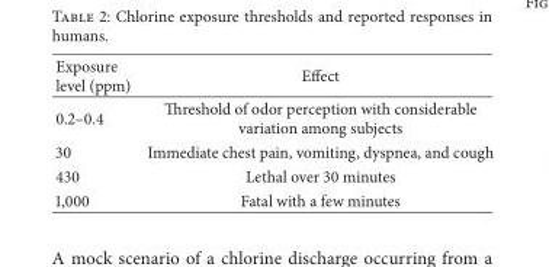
<table><thead><tr><td>Exposure level (ppm)</td><td>Effect</td></tr></thead><tbody><tr><td>0.2–0.4</td><td>Threshold of odor perception with considerable variation among subjects</td></tr><tr><td>30</td><td>Immediate chest pain, vomiting, dyspnea, and cough</td></tr><tr><td>430</td><td>Lethal over 30 minutes</td></tr><tr><td>1,000</td><td>Fatal with a few minutes</td></tr></tbody></table>